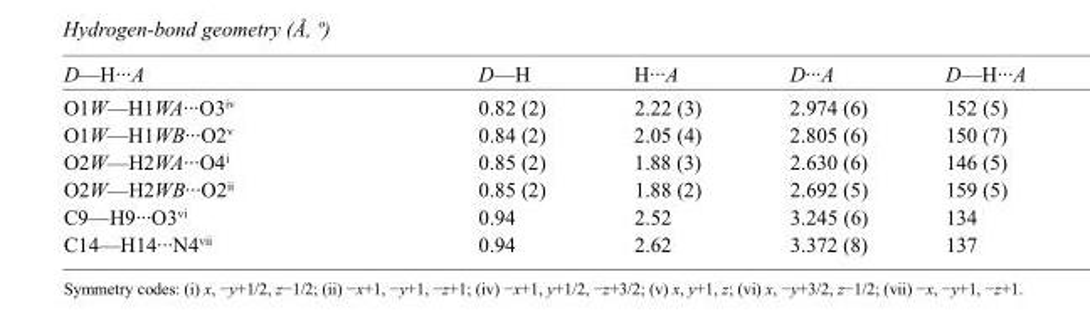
<table><tbody><tr><td>D—H···A</td><td>D—H</td><td>H···A</td><td>D···A</td><td>D—H···A</td></tr><tr><td>O1W—H1WA···O3<sup>iv</sup></td><td>0.82 (2)</td><td>2.22 (3)</td><td>2.974 (6)</td><td>152 (5)</td></tr><tr><td>O1W—H1WB···O2<sup>v</sup></td><td>0.84 (2)</td><td>2.05 (4)</td><td>2.805 (6)</td><td>150 (7)</td></tr><tr><td>O2W—H2WA···O4<sup>i</sup></td><td>0.85 (2)</td><td>1.88 (3)</td><td>2.630 (6)</td><td>146 (5)</td></tr><tr><td>O2W—H2WB···O2<sup>ii</sup></td><td>0.85 (2)</td><td>1.88 (2)</td><td>2.692 (5)</td><td>159 (5)</td></tr><tr><td>C9—H9···O3<sup>vi</sup></td><td>0.94</td><td>2.52</td><td>3.245 (6)</td><td>134</td></tr><tr><td>C14—H14···N4<sup>vii</sup></td><td>0.94</td><td>2.62</td><td>3.372 (8)</td><td>137</td></tr></tbody></table>